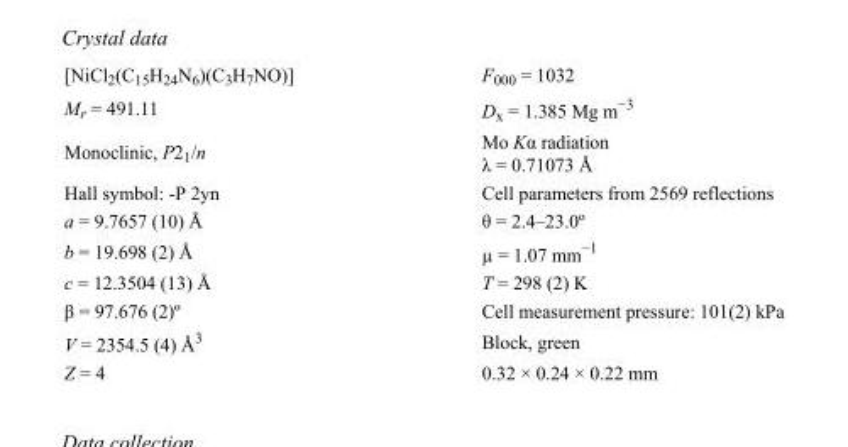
<table><tbody><tr><td>[NiCl<sub>2</sub>(C<sub>15</sub>H<sub>24</sub>N<sub>6</sub>)(C<sub>3</sub>H<sub>7</sub>NO)]</td><td>F<sub>000</sub> = 1032</td></tr><tr><td>M<sub>r</sub> = 491.11</td><td>D<sub>x</sub> = 1.385 Mg m<sup>−3</sup></td></tr><tr><td>Monoclinic, P2<sub>1</sub>/n</td><td>Mo Kα radiation λ = 0.71073 Å</td></tr><tr><td>Hall symbol: -P 2yn</td><td>Cell parameters from 2569 reflections</td></tr><tr><td>a = 9.7657 (10) Å</td><td>θ = 2.4–23.0º</td></tr><tr><td>b = 19.698 (2) Å</td><td>µ = 1.07 mm<sup>−1</sup></td></tr><tr><td>c = 12.3504 (13) Å</td><td>T = 298 (2) K</td></tr><tr><td>β = 97.676 (2)º</td><td>Cell measurement pressure: 101(2) kPa</td></tr><tr><td>V = 2354.5 (4) Å<sup>3</sup></td><td>Block, green</td></tr><tr><td>Z = 4</td><td>0.32 × 0.24 × 0.22 mm</td></tr></tbody></table>